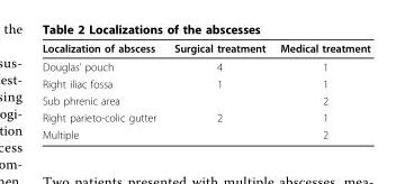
<table><thead><tr><td>Localization of abscess</td><td>Surgical treatment</td><td>Medical treatment</td></tr></thead><tbody><tr><td>Douglas’ pouch</td><td>4</td><td>1</td></tr><tr><td>Right iliac fossa</td><td>1</td><td>1</td></tr><tr><td>Sub phrenic area</td><td></td><td>2</td></tr><tr><td>Right parieto-colic gutter</td><td>2</td><td>1</td></tr><tr><td>Multiple</td><td></td><td>2</td></tr></tbody></table>